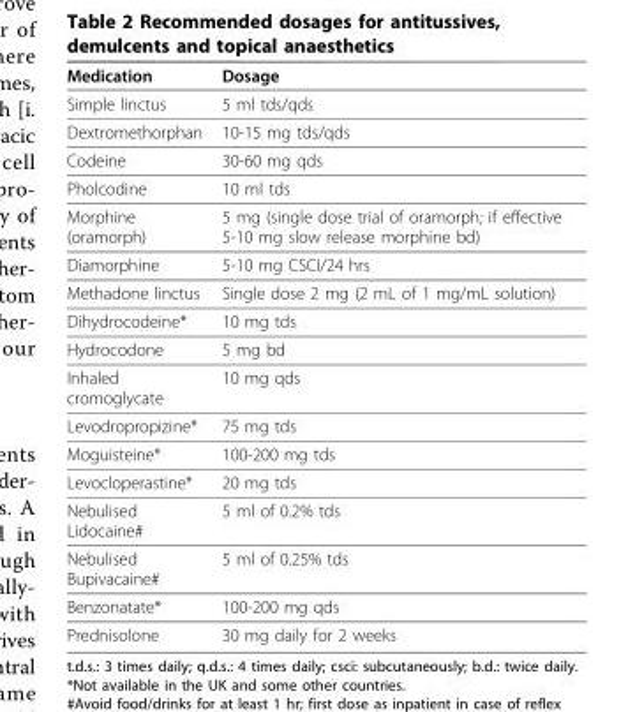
<table><thead><tr><td>Medication</td><td>Dosage</td></tr></thead><tbody><tr><td>Simple linctus</td><td>5 ml tds/qds</td></tr><tr><td>Dextromethorphan</td><td>10-15 mg tds/qds</td></tr><tr><td>Codeine</td><td>30-60 mg qds</td></tr><tr><td>Pholcodine</td><td>10 ml tds</td></tr><tr><td>Morphine (oramorph)</td><td>5 mg (single dose trial of oramorph; if effective 5-10 mg slow release morphine bd)</td></tr><tr><td>Diamorphine</td><td>5-10 mg CSCI/24 hrs</td></tr><tr><td>Methadone linctus</td><td>Single dose 2 mg (2 mL of 1 mg/mL solution)</td></tr><tr><td>Dihydrocodeine*</td><td>10 mg tds</td></tr><tr><td>Hydrocodone</td><td>5 mg bd</td></tr><tr><td>Inhaled cromoglycate</td><td>10 mg qds</td></tr><tr><td>Levodropropizine*</td><td>75 mg tds</td></tr><tr><td>Moguisteine*</td><td>100-200 mg tds</td></tr><tr><td>Levocloperastine*</td><td>20 mg tds</td></tr><tr><td>Nebulised Lidocaine#</td><td>5 ml of 0.2% tds</td></tr><tr><td>Nebulised Bupivacaine#</td><td>5 ml of 0.25% tds</td></tr><tr><td>Benzonatate*</td><td>100-200 mg qds</td></tr><tr><td>Prednisolone</td><td>30 mg daily for 2 weeks</td></tr></tbody></table>